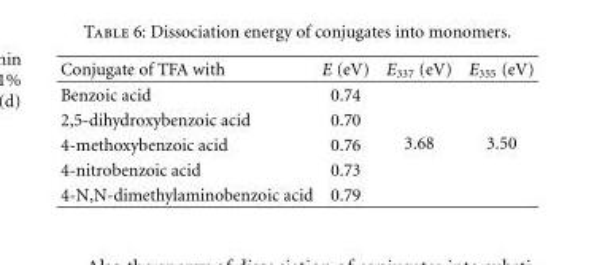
<table><thead><tr><td>Conjugate of TFA with</td><td>E (eV)</td><td>E<sub>337</sub> (eV)</td><td>E<sub>355</sub> (eV)</td></tr></thead><tbody><tr><td>Benzoic acid</td><td>0.74</td><td rowspan="5">3.68</td><td rowspan="5">3.50</td></tr><tr><td>2,5-dihydroxybenzoic acid</td><td>0.70</td></tr><tr><td>4-methoxybenzoic acid</td><td>0.76</td></tr><tr><td>4-nitrobenzoic acid</td><td>0.73</td></tr><tr><td>4-N,N-dimethylaminobenzoic acid</td><td>0.79</td></tr></tbody></table>